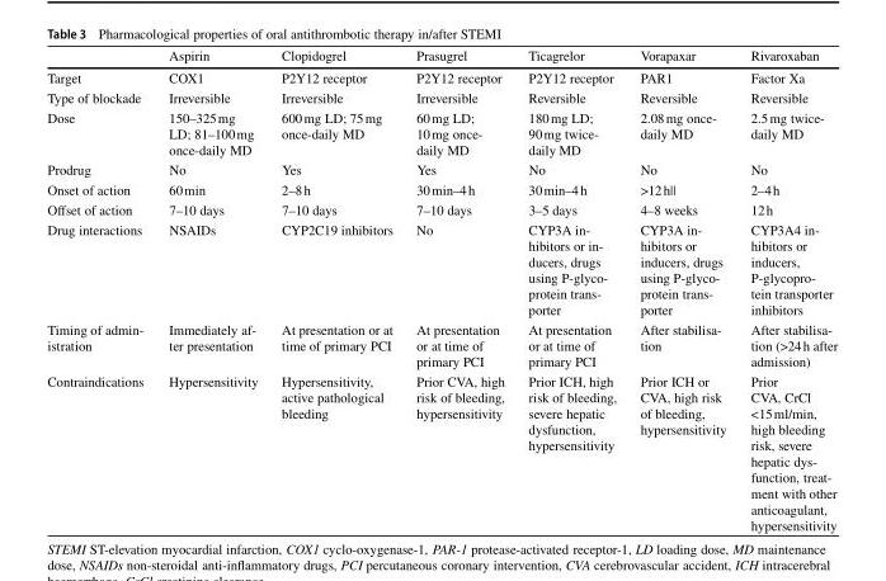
<table><thead><tr><td></td><td>Aspirin</td><td>Clopidogrel</td><td>Prasugrel</td><td>Ticagrelor</td><td>Vorapaxar</td><td>Rivaroxaban</td></tr></thead><tbody><tr><td>Target</td><td>COX1</td><td>P2Y12 receptor</td><td>P2Y12 receptor</td><td>P2Y12 receptor</td><td>PAR1</td><td>Factor Xa</td></tr><tr><td>Type of blockade</td><td>Irreversible</td><td>Irreversible</td><td>Irreversible</td><td>Reversible</td><td>Reversible</td><td>Reversible</td></tr><tr><td>Dose</td><td>150–325mg LD; 81–100mg once-daily MD</td><td>600mg LD; 75mg once-daily MD</td><td>60mg LD; 10mg once- daily MD</td><td>180mg LD; 90mg twice- daily MD</td><td>2.08mg once- daily MD</td><td>2.5mg twice- daily MD</td></tr><tr><td>Prodrug</td><td>No</td><td>Yes</td><td>Yes</td><td>No</td><td>No</td><td>No</td></tr><tr><td>Onset of action</td><td>60min</td><td>2–8h</td><td>30min–4h</td><td>30min–4h</td><td>&gt;12h||</td><td>2–4h</td></tr><tr><td>Offset of action</td><td>7–10 days</td><td>7–10 days</td><td>7–10 days</td><td>3–5 days</td><td>4–8 weeks</td><td>12h</td></tr><tr><td>Drug interactions</td><td>NSAIDs</td><td>CYP2C19 inhibitors</td><td>No</td><td>CYP3A in- hibitors or in- ducers, drugs using P-glyco- protein trans- porter</td><td>CYP3A in- hibitors or inducers, drugs using P-glyco- protein trans- porter</td><td>CYP3A4 in- hibitors or inducers, P-glycopro- tein transporter inhibitors</td></tr><tr><td>Timing of admin- istration</td><td>Immediately af- ter presentation</td><td>At presentation or at time of primary PCI</td><td>At presentation or at time of primary PCI</td><td>At presentation or at time of primary PCI</td><td>After stabilisa- tion</td><td>After stabilisa- tion (&gt;24h after admission)</td></tr><tr><td>Contraindications</td><td>Hypersensitivity</td><td>Hypersensitivity, active pathological bleeding</td><td>Prior CVA, high risk of bleeding, hypersensitivity</td><td>Prior ICH, high risk of bleeding, severe hepatic dysfunction, hypersensitivity</td><td>Prior ICH or CVA, high risk of bleeding, hypersensitivity</td><td>Prior CVA, CrCl &lt;15ml/min, high bleeding risk, severe hepatic dys- function, treat- ment with other anticoagulant, hypersensitivity</td></tr></tbody></table>